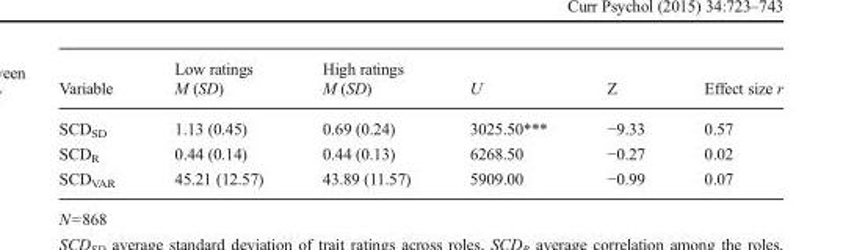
<table><thead><tr><td rowspan="2">Variable</td><td rowspan="2">Low ratings M (SD)</td><td rowspan="2">High ratings M (SD)</td><td rowspan="2">U</td><td rowspan="2">Z</td><td rowspan="2">Effect size r</td></tr><tr></tr></thead><tbody><tr><td>SCD<sub>SD</sub></td><td>1.13 (0.45)</td><td>0.69 (0.24)</td><td>3025.50***</td><td>−9.33</td><td>0.57</td></tr><tr><td>SCD<sub>R</sub></td><td>0.44 (0.14)</td><td>0.44 (0.13)</td><td>6268.50</td><td>−0.27</td><td>0.02</td></tr><tr><td>SCD<sub>VAR</sub></td><td>45.21 (12.57)</td><td>43.89 (11.57)</td><td>5909.00</td><td>−0.99</td><td>0.07</td></tr></tbody></table>